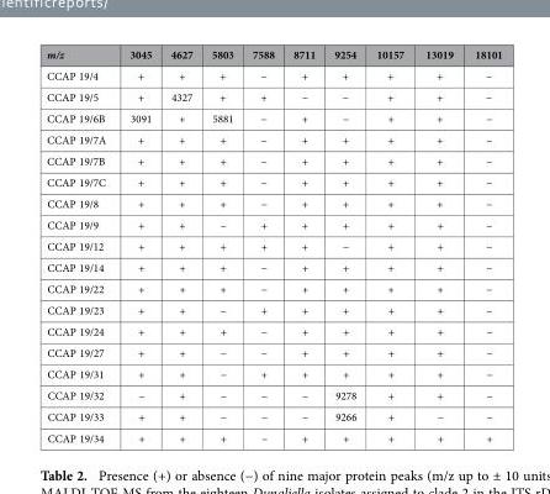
<table><thead><tr><td>m/z</td><td>3045</td><td>4627</td><td>5803</td><td>7588</td><td>8711</td><td>9254</td><td>10157</td><td>13019</td><td>18101</td></tr></thead><tbody><tr><td>CCAP 19/4</td><td>+</td><td>+</td><td>+</td><td>−</td><td>+</td><td>+</td><td>+</td><td>+</td><td>−</td></tr><tr><td>CCAP 19/5</td><td>+</td><td>4327</td><td>+</td><td>+</td><td>−</td><td>−</td><td>+</td><td>+</td><td>−</td></tr><tr><td>CCAP 19/6B</td><td>3091</td><td>+</td><td>5881</td><td>−</td><td>+</td><td>−</td><td>+</td><td>+</td><td>−</td></tr><tr><td>CCAP 19/7A</td><td>+</td><td>+</td><td>+</td><td>−</td><td>+</td><td>+</td><td>+</td><td>+</td><td>−</td></tr><tr><td>CCAP 19/7B</td><td>+</td><td>+</td><td>+</td><td>−</td><td>+</td><td>+</td><td>+</td><td>+</td><td>−</td></tr><tr><td>CCAP 19/7C</td><td>+</td><td>+</td><td>+</td><td>−</td><td>+</td><td>+</td><td>+</td><td>+</td><td>−</td></tr><tr><td>CCAP 19/8</td><td>+</td><td>+</td><td>+</td><td>−</td><td>+</td><td>+</td><td>+</td><td>+</td><td>−</td></tr><tr><td>CCAP 19/9</td><td>+</td><td>+</td><td>−</td><td>+</td><td>+</td><td>+</td><td>+</td><td>+</td><td>−</td></tr><tr><td>CCAP 19/12</td><td>+</td><td>+</td><td>+</td><td>+</td><td>+</td><td>−</td><td>+</td><td>+</td><td>−</td></tr><tr><td>CCAP 19/14</td><td>+</td><td>+</td><td>+</td><td>−</td><td>+</td><td>+</td><td>+</td><td>+</td><td>−</td></tr><tr><td>CCAP 19/22</td><td>+</td><td>+</td><td>+</td><td>−</td><td>+</td><td>+</td><td>+</td><td>+</td><td>−</td></tr><tr><td>CCAP 19/23</td><td>+</td><td>+</td><td>−</td><td>+</td><td>+</td><td>+</td><td>+</td><td>+</td><td>−</td></tr><tr><td>CCAP 19/24</td><td>+</td><td>+</td><td>+</td><td>−</td><td>+</td><td>+</td><td>+</td><td>+</td><td>−</td></tr><tr><td>CCAP 19/27</td><td>+</td><td>+</td><td>−</td><td>−</td><td>+</td><td>+</td><td>+</td><td>+</td><td>−</td></tr><tr><td>CCAP 19/31</td><td>+</td><td>+</td><td>−</td><td>+</td><td>+</td><td>+</td><td>+</td><td>+</td><td>−</td></tr><tr><td>CCAP 19/32</td><td>−</td><td>+</td><td>−</td><td>−</td><td>−</td><td>9278</td><td>+</td><td>+</td><td>−</td></tr><tr><td>CCAP 19/33</td><td>+</td><td>+</td><td>−</td><td>−</td><td>−</td><td>9266</td><td>+</td><td>−</td><td>−</td></tr><tr><td>CCAP 19/34</td><td>+</td><td>+</td><td>+</td><td>−</td><td>+</td><td>+</td><td>+</td><td>+</td><td>+</td></tr></tbody></table>